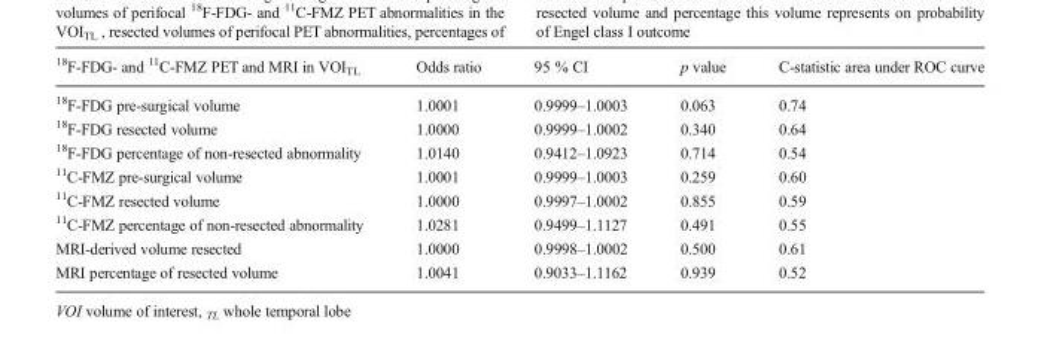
<table><thead><tr><td><sup>18</sup>F-FDG- and <sup>11</sup>C-FMZ PET and MRI in VOI<sub>TL</sub></td><td>Odds ratio</td><td>95 % CI</td><td>p value</td><td>C-statistic area under ROC curve</td></tr></thead><tbody><tr><td><sup>18</sup>F-FDG pre-surgical volume</td><td>1.0001</td><td>0.9999–1.0003</td><td>0.063</td><td>0.74</td></tr><tr><td><sup>18</sup>F-FDG resected volume</td><td>1.0000</td><td>0.9999–1.0002</td><td>0.340</td><td>0.64</td></tr><tr><td><sup>18</sup>F-FDG percentage of non-resected abnormality</td><td>1.0140</td><td>0.9412–1.0923</td><td>0.714</td><td>0.54</td></tr><tr><td><sup>11</sup>C-FMZ pre-surgical volume</td><td>1.0001</td><td>0.9999–1.0003</td><td>0.259</td><td>0.60</td></tr><tr><td><sup>11</sup>C-FMZ resected volume</td><td>1.0000</td><td>0.9997–1.0002</td><td>0.855</td><td>0.59</td></tr><tr><td><sup>11</sup>C-FMZ percentage of non-resected abnormality</td><td>1.0281</td><td>0.9499–1.1127</td><td>0.491</td><td>0.55</td></tr><tr><td>MRI-derived volume resected</td><td>1.0000</td><td>0.9998–1.0002</td><td>0.500</td><td>0.61</td></tr><tr><td>MRI percentage of resected volume</td><td>1.0041</td><td>0.9033–1.1162</td><td>0.939</td><td>0.52</td></tr></tbody></table>